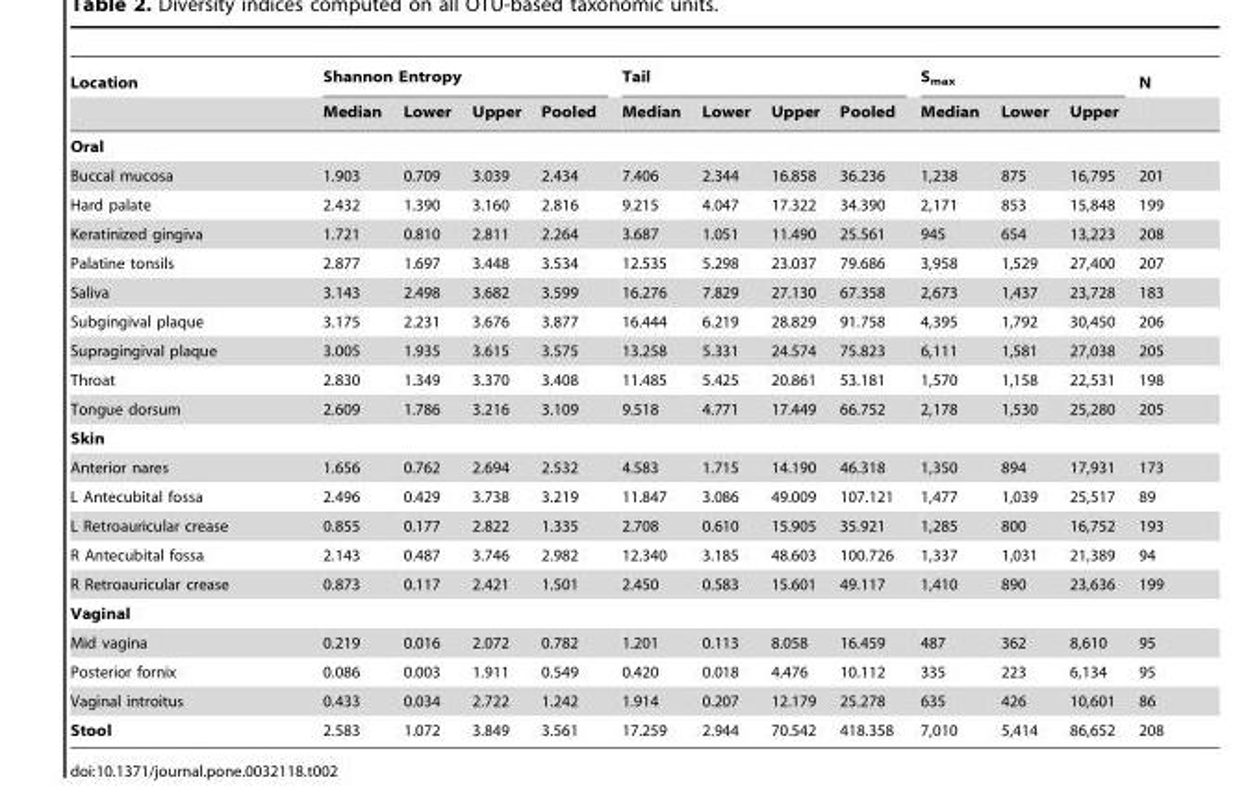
<table><thead><tr><td rowspan="2">Location</td><td colspan="4">Shannon Entropy</td><td colspan="4">Tail</td><td colspan="3">S<sub>max</sub></td><td rowspan="2">N</td></tr><tr><td>Median</td><td>Lower</td><td>Upper</td><td>Pooled</td><td>Median</td><td>Lower</td><td>Upper</td><td>Pooled</td><td>Median</td><td>Lower</td><td>Upper</td></tr></thead><tbody><tr><td colspan="13">Oral</td></tr><tr><td>Buccal mucosa</td><td>1.903</td><td>0.709</td><td>3.039</td><td>2.434</td><td>7.406</td><td>2.344</td><td>16.858</td><td>36.236</td><td>1,238</td><td>875</td><td>16,795</td><td>201</td></tr><tr><td>Hard palate</td><td>2.432</td><td>1.390</td><td>3.160</td><td>2.816</td><td>9.215</td><td>4.047</td><td>17.322</td><td>34.390</td><td>2,171</td><td>853</td><td>15,848</td><td>199</td></tr><tr><td>Keratinized gingiva</td><td>1.721</td><td>0.810</td><td>2.811</td><td>2.264</td><td>3.687</td><td>1.051</td><td>11.490</td><td>25.561</td><td>945</td><td>654</td><td>13,223</td><td>208</td></tr><tr><td>Palatine tonsils</td><td>2.877</td><td>1.697</td><td>3.448</td><td>3.534</td><td>12.535</td><td>5.298</td><td>23.037</td><td>79.686</td><td>3,958</td><td>1,529</td><td>27,400</td><td>207</td></tr><tr><td>Saliva</td><td>3.143</td><td>2.498</td><td>3.682</td><td>3.599</td><td>16.276</td><td>7.829</td><td>27.130</td><td>67.358</td><td>2,673</td><td>1,437</td><td>23,728</td><td>183</td></tr><tr><td>Subgingival plaque</td><td>3.175</td><td>2.231</td><td>3.676</td><td>3.877</td><td>16.444</td><td>6.219</td><td>28.829</td><td>91.758</td><td>4,395</td><td>1,792</td><td>30,450</td><td>206</td></tr><tr><td>Supragingival plaque</td><td>3.005</td><td>1.935</td><td>3.615</td><td>3.575</td><td>13.258</td><td>5.331</td><td>24.574</td><td>75.823</td><td>6,111</td><td>1,581</td><td>27,038</td><td>205</td></tr><tr><td>Throat</td><td>2.830</td><td>1.349</td><td>3.370</td><td>3.408</td><td>11.485</td><td>5.425</td><td>20.861</td><td>53.181</td><td>1,570</td><td>1,158</td><td>22,531</td><td>198</td></tr><tr><td>Tongue dorsum</td><td>2.609</td><td>1.786</td><td>3.216</td><td>3.109</td><td>9.518</td><td>4.771</td><td>17.449</td><td>66.752</td><td>2,178</td><td>1,530</td><td>25,280</td><td>205</td></tr><tr><td colspan="13">Skin</td></tr><tr><td>Anterior nares</td><td>1.656</td><td>0.762</td><td>2.694</td><td>2.532</td><td>4.583</td><td>1.715</td><td>14.190</td><td>46.318</td><td>1,350</td><td>894</td><td>17,931</td><td>173</td></tr><tr><td>L Antecubital fossa</td><td>2.496</td><td>0.429</td><td>3.738</td><td>3.219</td><td>11.847</td><td>3.086</td><td>49.009</td><td>107.121</td><td>1,477</td><td>1,039</td><td>25,517</td><td>89</td></tr><tr><td>L Retroauricular crease</td><td>0.855</td><td>0.177</td><td>2.822</td><td>1.335</td><td>2.708</td><td>0.610</td><td>15.905</td><td>35.921</td><td>1,285</td><td>800</td><td>16,752</td><td>193</td></tr><tr><td>R Antecubital fossa</td><td>2.143</td><td>0.487</td><td>3.746</td><td>2.982</td><td>12.340</td><td>3.185</td><td>48.603</td><td>100.726</td><td>1,337</td><td>1,031</td><td>21,389</td><td>94</td></tr><tr><td>R Retroauricular crease</td><td>0.873</td><td>0.117</td><td>2.421</td><td>1.501</td><td>2.450</td><td>0.583</td><td>15.601</td><td>49.117</td><td>1,410</td><td>890</td><td>23,636</td><td>199</td></tr><tr><td colspan="13">Vaginal</td></tr><tr><td>Mid vagina</td><td>0.219</td><td>0.016</td><td>2.072</td><td>0.782</td><td>1.201</td><td>0.113</td><td>8.058</td><td>16.459</td><td>487</td><td>362</td><td>8,610</td><td>95</td></tr><tr><td>Posterior fornix</td><td>0.086</td><td>0.003</td><td>1.911</td><td>0.549</td><td>0.420</td><td>0.018</td><td>4.476</td><td>10.112</td><td>335</td><td>223</td><td>6,134</td><td>95</td></tr><tr><td>Vaginal introitus</td><td>0.433</td><td>0.034</td><td>2.722</td><td>1.242</td><td>1.914</td><td>0.207</td><td>12.179</td><td>25.278</td><td>635</td><td>426</td><td>10,601</td><td>86</td></tr><tr><td>Stool</td><td>2.583</td><td>1.072</td><td>3.849</td><td>3.561</td><td>17.259</td><td>2.944</td><td>70.542</td><td>418.358</td><td>7,010</td><td>5,414</td><td>86,652</td><td>208</td></tr></tbody></table>